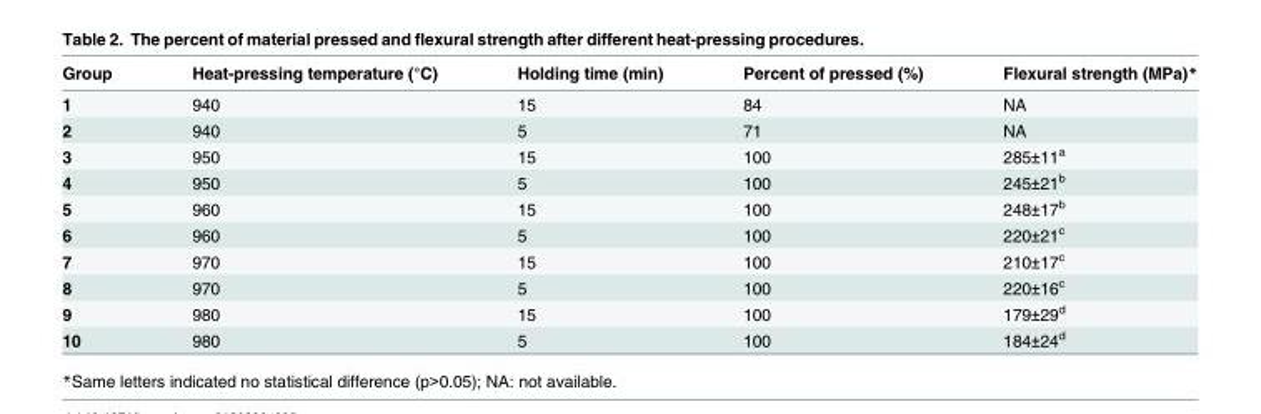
<table><thead><tr><td>Group</td><td>Heat-pressing temperature (°C)</td><td>Holding time (min)</td><td>Percent of pressed (%)</td><td>Flexural strength (MPa)*</td></tr></thead><tbody><tr><td>1</td><td>940</td><td>15</td><td>84</td><td>NA</td></tr><tr><td>2</td><td>940</td><td>5</td><td>71</td><td>NA</td></tr><tr><td>3</td><td>950</td><td>15</td><td>100</td><td>285±11<sup>a</sup></td></tr><tr><td>4</td><td>950</td><td>5</td><td>100</td><td>245±21<sup>b</sup></td></tr><tr><td>5</td><td>960</td><td>15</td><td>100</td><td>248±17<sup>b</sup></td></tr><tr><td>6</td><td>960</td><td>5</td><td>100</td><td>220±21<sup>c</sup></td></tr><tr><td>7</td><td>970</td><td>15</td><td>100</td><td>210±17<sup>c</sup></td></tr><tr><td>8</td><td>970</td><td>5</td><td>100</td><td>220±16<sup>c</sup></td></tr><tr><td>9</td><td>980</td><td>15</td><td>100</td><td>179±29<sup>d</sup></td></tr><tr><td>10</td><td>980</td><td>5</td><td>100</td><td>184±24<sup>d</sup></td></tr></tbody></table>